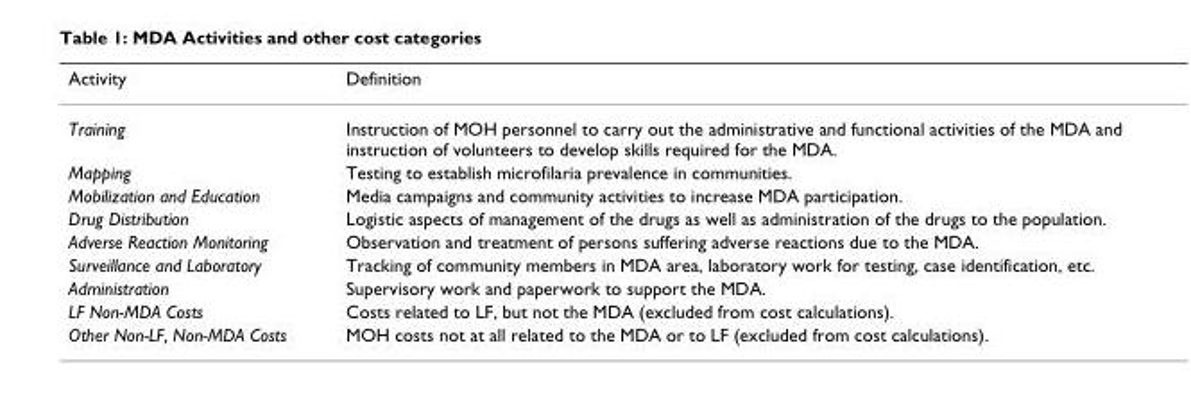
<table><thead><tr><td>Activity</td><td>Definition</td></tr></thead><tbody><tr><td>Training</td><td>Instruction of MOH personnel to carry out the administrative and functional activities of the MDA and instruction of volunteers to develop skills required for the MDA.</td></tr><tr><td>Mapping</td><td>Testing to establish microfilaria prevalence in communities.</td></tr><tr><td>Mobilization and Education</td><td>Media campaigns and community activities to increase MDA participation.</td></tr><tr><td>Drug Distribution</td><td>Logistic aspects of management of the drugs as well as administration of the drugs to the population.</td></tr><tr><td>Adverse Reaction Monitoring</td><td>Observation and treatment of persons suffering adverse reactions due to the MDA.</td></tr><tr><td>Surveillance and Laboratory</td><td>Tracking of community members in MDA area, laboratory work for testing, case identification, etc.</td></tr><tr><td>Administration</td><td>Supervisory work and paperwork to support the MDA.</td></tr><tr><td>LF Non-MDA Costs</td><td>Costs related to LF, but not the MDA (excluded from cost calculations).</td></tr><tr><td>Other Non-LF, Non-MDA Costs</td><td>MOH costs not at all related to the MDA or to LF (excluded from cost calculations).</td></tr></tbody></table>